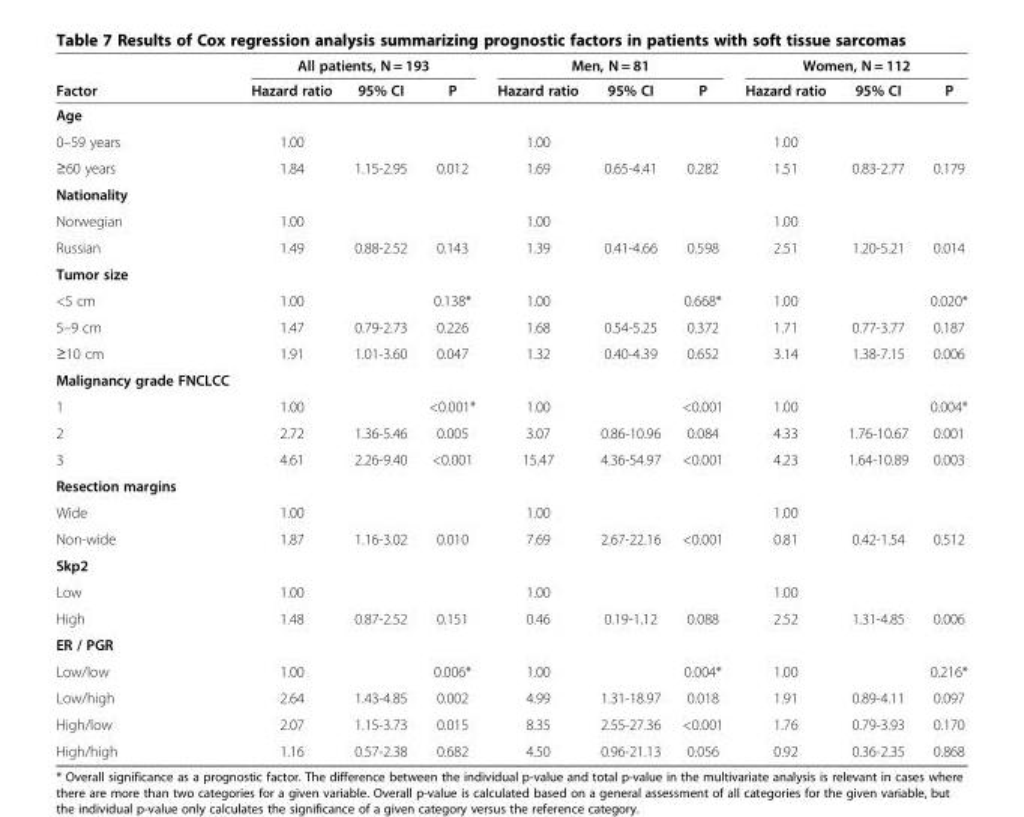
<table><thead><tr><td rowspan="2">Factor</td><td colspan="3">All patients, N = 193</td><td colspan="3">Men, N = 81</td><td colspan="3">Women, N = 112</td></tr><tr><td>Hazard ratio</td><td>95% CI</td><td>P</td><td>Hazard ratio</td><td>95% CI</td><td>P</td><td>Hazard ratio</td><td>95% CI</td><td>P</td></tr></thead><tbody><tr><td colspan="10">Age</td></tr><tr><td>0–59 years</td><td>1.00</td><td></td><td></td><td>1.00</td><td></td><td></td><td>1.00</td><td></td><td></td></tr><tr><td>≥60 years</td><td>1.84</td><td>1.15-2.95</td><td>0.012</td><td>1.69</td><td>0.65-4.41</td><td>0.282</td><td>1.51</td><td>0.83-2.77</td><td>0.179</td></tr><tr><td colspan="10">Nationality</td></tr><tr><td>Norwegian</td><td>1.00</td><td></td><td></td><td>1.00</td><td></td><td></td><td>1.00</td><td></td><td></td></tr><tr><td>Russian</td><td>1.49</td><td>0.88-2.52</td><td>0.143</td><td>1.39</td><td>0.41-4.66</td><td>0.598</td><td>2.51</td><td>1.20-5.21</td><td>0.014</td></tr><tr><td colspan="10">Tumor size</td></tr><tr><td>&lt;5 cm</td><td>1.00</td><td></td><td>0.138*</td><td>1.00</td><td></td><td>0.668*</td><td>1.00</td><td></td><td>0.020*</td></tr><tr><td>5–9 cm</td><td>1.47</td><td>0.79-2.73</td><td>0.226</td><td>1.68</td><td>0.54-5.25</td><td>0.372</td><td>1.71</td><td>0.77-3.77</td><td>0.187</td></tr><tr><td>≥10 cm</td><td>1.91</td><td>1.01-3.60</td><td>0.047</td><td>1.32</td><td>0.40-4.39</td><td>0.652</td><td>3.14</td><td>1.38-7.15</td><td>0.006</td></tr><tr><td colspan="10">Malignancy grade FNCLCC</td></tr><tr><td>1</td><td>1.00</td><td></td><td>&lt;0.001*</td><td>1.00</td><td></td><td>&lt;0.001</td><td>1.00</td><td></td><td>0.004*</td></tr><tr><td>2</td><td>2.72</td><td>1.36-5.46</td><td>0.005</td><td>3.07</td><td>0.86-10.96</td><td>0.084</td><td>4.33</td><td>1.76-10.67</td><td>0.001</td></tr><tr><td>3</td><td>4.61</td><td>2.26-9.40</td><td>&lt;0.001</td><td>15.47</td><td>4.36-54.97</td><td>&lt;0.001</td><td>4.23</td><td>1.64-10.89</td><td>0.003</td></tr><tr><td colspan="10">Resection margins</td></tr><tr><td>Wide</td><td>1.00</td><td></td><td></td><td>1.00</td><td></td><td></td><td>1.00</td><td></td><td></td></tr><tr><td>Non-wide</td><td>1.87</td><td>1.16-3.02</td><td>0.010</td><td>7.69</td><td>2.67-22.16</td><td>&lt;0.001</td><td>0.81</td><td>0.42-1.54</td><td>0.512</td></tr><tr><td colspan="10">Skp2</td></tr><tr><td>Low</td><td>1.00</td><td></td><td></td><td>1.00</td><td></td><td></td><td>1.00</td><td></td><td></td></tr><tr><td>High</td><td>1.48</td><td>0.87-2.52</td><td>0.151</td><td>0.46</td><td>0.19-1.12</td><td>0.088</td><td>2.52</td><td>1.31-4.85</td><td>0.006</td></tr><tr><td colspan="10">ER / PGR</td></tr><tr><td>Low/low</td><td>1.00</td><td></td><td>0.006*</td><td>1.00</td><td></td><td>0.004*</td><td>1.00</td><td></td><td>0.216*</td></tr><tr><td>Low/high</td><td>2.64</td><td>1.43-4.85</td><td>0.002</td><td>4.99</td><td>1.31-18.97</td><td>0.018</td><td>1.91</td><td>0.89-4.11</td><td>0.097</td></tr><tr><td>High/low</td><td>2.07</td><td>1.15-3.73</td><td>0.015</td><td>8.35</td><td>2.55-27.36</td><td>&lt;0.001</td><td>1.76</td><td>0.79-3.93</td><td>0.170</td></tr><tr><td>High/high</td><td>1.16</td><td>0.57-2.38</td><td>0.682</td><td>4.50</td><td>0.96-21.13</td><td>0.056</td><td>0.92</td><td>0.36-2.35</td><td>0.868</td></tr></tbody></table>